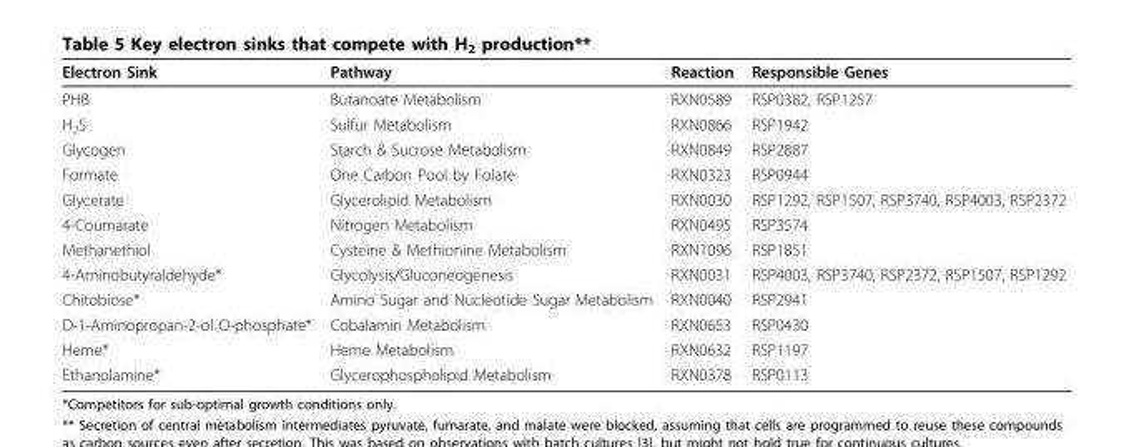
<table><thead><tr><td>Electron Sink</td><td>Pathway</td><td>Reaction</td><td>Responsible Genes</td></tr></thead><tbody><tr><td>PHB</td><td>Butanoate Metabolism</td><td>RXN0589</td><td>RSP0382, RSP1257</td></tr><tr><td>H<sub>2</sub>S</td><td>Sulfur Metabolism</td><td>RXN0866</td><td>RSP1942</td></tr><tr><td>Glycogen</td><td>Starch &amp; Sucrose Metabolism</td><td>RXN0849</td><td>RSP2887</td></tr><tr><td>Formate</td><td>One Carbon Pool by Folate</td><td>RXN0323</td><td>RSP0944</td></tr><tr><td>Glycerate</td><td>Glycerolipid Metabolism</td><td>RXN0030</td><td>RSP1292, RSP1507, RSP3740, RSP4003, RSP2372</td></tr><tr><td>4-Coumarate</td><td>Nitrogen Metabolism</td><td>RXN0495</td><td>RSP3574</td></tr><tr><td>Methanethiol</td><td>Cysteine &amp; Methionine Metabolism</td><td>RXN1096</td><td>RSP1851</td></tr><tr><td>4-Aminobutyraldehyde*</td><td>Glycolysis/Gluconeogenesis</td><td>RXN0031</td><td>RSP4003, RSP3740, RSP2372, RSP1507, RSP1292</td></tr><tr><td>Chitobiose*</td><td>Amino Sugar and Nucleotide Sugar Metabolism</td><td>RXN0040</td><td>RSP2941</td></tr><tr><td>D-1-Aminopropan-2-ol O-phosphate*</td><td>Cobalamin Metabolism</td><td>RXN0653</td><td>RSP0430</td></tr><tr><td>Heme*</td><td>Heme Metabolism</td><td>RXN0632</td><td>RSP1197</td></tr><tr><td>Ethanolamine*</td><td>Glycerophospholipid Metabolism</td><td>RXN0378</td><td>RSP0113</td></tr></tbody></table>